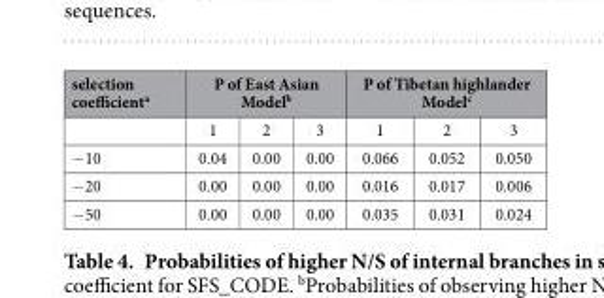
<table><thead><tr><td rowspan="2">selection coefficient<sup>a</sup></td><td colspan="3">P of East Asian Model<sup>b</sup></td><td colspan="3">P of Tibetan highlander Model<sup>c</sup></td></tr><tr><td>1</td><td>2</td><td>3</td><td>1</td><td>2</td><td>3</td></tr></thead><tbody><tr><td>− 10</td><td>0.04</td><td>0.00</td><td>0.00</td><td>0.066</td><td>0.052</td><td>0.050</td></tr><tr><td>− 20</td><td>0.00</td><td>0.00</td><td>0.00</td><td>0.016</td><td>0.017</td><td>0.006</td></tr><tr><td>− 50</td><td>0.00</td><td>0.00</td><td>0.00</td><td>0.035</td><td>0.031</td><td>0.024</td></tr></tbody></table>